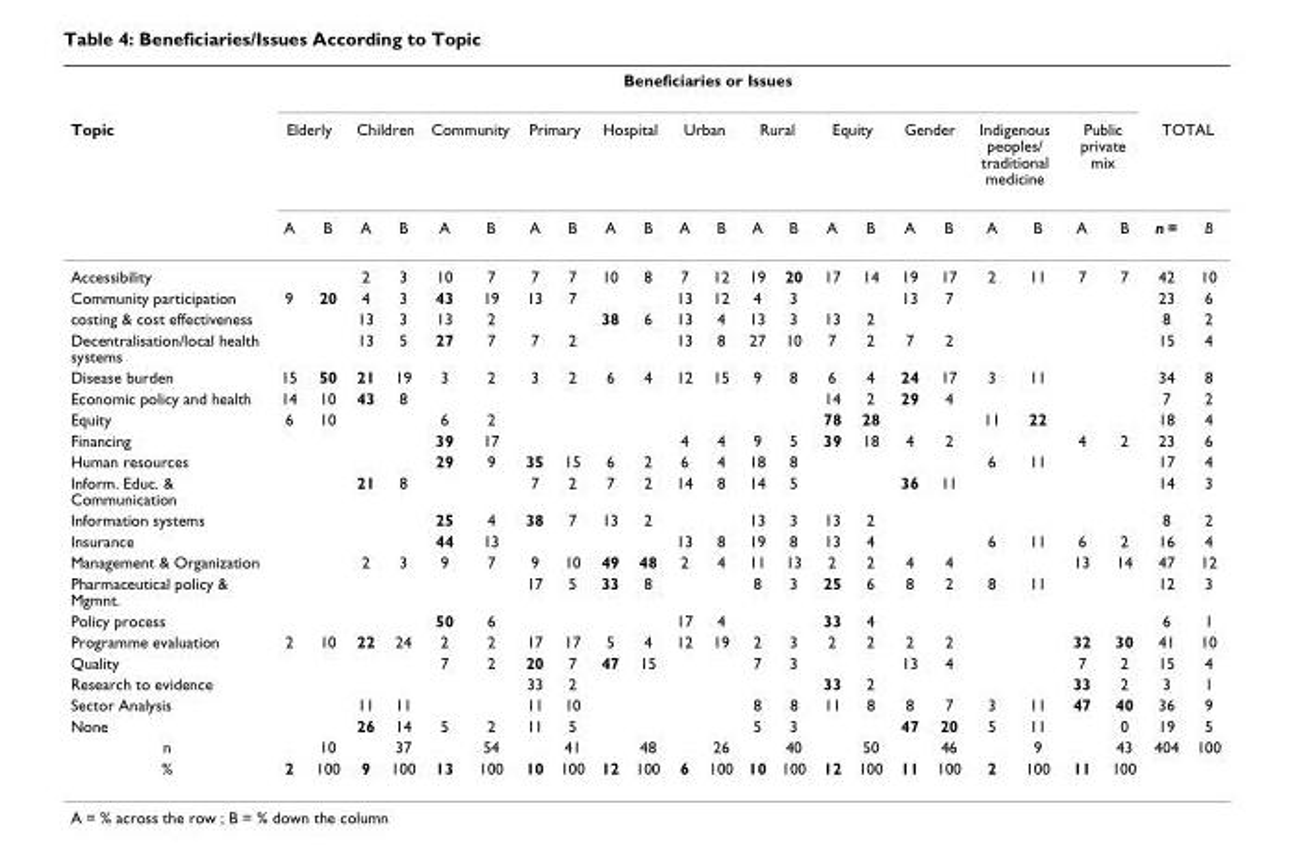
<table><thead><tr><td rowspan="3">Topic</td><td colspan="22">Beneficiaries or Issues</td><td></td><td></td></tr><tr><td colspan="2">Elderly</td><td colspan="2">Children</td><td colspan="2">Community</td><td colspan="2">Primary</td><td colspan="2">Hospital</td><td colspan="2">Urban</td><td colspan="2">Rural</td><td colspan="2">Equity</td><td colspan="2">Gender</td><td colspan="2">Indigenous peoples/ traditional medicine</td><td colspan="2">Public private mix</td><td colspan="2">TOTAL</td></tr><tr><td>A</td><td>B</td><td>A</td><td>B</td><td>A</td><td>B</td><td>A</td><td>B</td><td>A</td><td>B</td><td>A</td><td>B</td><td>A</td><td>B</td><td>A</td><td>B</td><td>A</td><td>B</td><td>A</td><td>B</td><td>A</td><td>B</td><td>n =</td><td>B</td></tr></thead><tbody><tr><td>Accessibility</td><td></td><td></td><td>2</td><td>3</td><td>10</td><td>7</td><td>7</td><td>7</td><td>10</td><td>8</td><td>7</td><td>12</td><td>19</td><td>20</td><td>17</td><td>14</td><td>19</td><td>17</td><td>2</td><td>11</td><td>7</td><td>7</td><td>42</td><td>10</td></tr><tr><td>Community participation</td><td>9</td><td>20</td><td>4</td><td>3</td><td>43</td><td>19</td><td>13</td><td>7</td><td></td><td></td><td>13</td><td>12</td><td>4</td><td>3</td><td></td><td></td><td>13</td><td>7</td><td></td><td></td><td></td><td></td><td>23</td><td>6</td></tr><tr><td>costing &amp; cost effectiveness</td><td></td><td></td><td>13</td><td>3</td><td>13</td><td>2</td><td></td><td></td><td>38</td><td>6</td><td>13</td><td>4</td><td>13</td><td>3</td><td>13</td><td>2</td><td></td><td></td><td></td><td></td><td></td><td></td><td>8</td><td>2</td></tr><tr><td>Decentralisation/local health systems</td><td></td><td></td><td>13</td><td>5</td><td>27</td><td>7</td><td>7</td><td>2</td><td></td><td></td><td>13</td><td>8</td><td>27</td><td>10</td><td>7</td><td>2</td><td>7</td><td>2</td><td></td><td></td><td></td><td></td><td>15</td><td>4</td></tr><tr><td>Disease burden</td><td>15</td><td>50</td><td>21</td><td>19</td><td>3</td><td>2</td><td>3</td><td>2</td><td>6</td><td>4</td><td>12</td><td>15</td><td>9</td><td>8</td><td>6</td><td>4</td><td>24</td><td>17</td><td>3</td><td>11</td><td></td><td></td><td>34</td><td>8</td></tr><tr><td>Economic policy and health</td><td>14</td><td>10</td><td>43</td><td>8</td><td></td><td></td><td></td><td></td><td></td><td></td><td></td><td></td><td></td><td></td><td>14</td><td>2</td><td>29</td><td>4</td><td></td><td></td><td></td><td></td><td>7</td><td>2</td></tr><tr><td>Equity</td><td>6</td><td>10</td><td></td><td></td><td>6</td><td>2</td><td></td><td></td><td></td><td></td><td></td><td></td><td></td><td></td><td>78</td><td>28</td><td></td><td></td><td>11</td><td>22</td><td></td><td></td><td>18</td><td>4</td></tr><tr><td>Financing</td><td></td><td></td><td></td><td></td><td>39</td><td>17</td><td></td><td></td><td></td><td></td><td>4</td><td>4</td><td>9</td><td>5</td><td>39</td><td>18</td><td>4</td><td>2</td><td></td><td></td><td>4</td><td>2</td><td>23</td><td>6</td></tr><tr><td>Human resources</td><td></td><td></td><td></td><td></td><td>29</td><td>9</td><td>35</td><td>15</td><td>6</td><td>2</td><td>6</td><td>4</td><td>18</td><td>8</td><td></td><td></td><td></td><td></td><td>6</td><td>11</td><td></td><td></td><td>17</td><td>4</td></tr><tr><td>Inform. Educ. &amp; Communication</td><td></td><td></td><td>21</td><td>8</td><td></td><td></td><td>7</td><td>2</td><td>7</td><td>2</td><td>14</td><td>8</td><td>14</td><td>5</td><td></td><td></td><td>36</td><td>11</td><td></td><td></td><td></td><td></td><td>14</td><td>3</td></tr><tr><td>Information systems</td><td></td><td></td><td></td><td></td><td>25</td><td>4</td><td>38</td><td>7</td><td>13</td><td>2</td><td></td><td></td><td>13</td><td>3</td><td>13</td><td>2</td><td></td><td></td><td></td><td></td><td></td><td></td><td>8</td><td>2</td></tr><tr><td>Insurance</td><td></td><td></td><td></td><td></td><td>44</td><td>13</td><td></td><td></td><td></td><td></td><td>13</td><td>8</td><td>19</td><td>8</td><td>13</td><td>4</td><td></td><td></td><td>6</td><td>11</td><td>6</td><td>2</td><td>16</td><td>4</td></tr><tr><td>Management &amp; Organization</td><td></td><td></td><td>2</td><td>3</td><td>9</td><td>7</td><td>9</td><td>10</td><td>49</td><td>48</td><td>2</td><td>4</td><td>11</td><td>13</td><td>2</td><td>2</td><td>4</td><td>4</td><td></td><td></td><td>13</td><td>14</td><td>47</td><td>12</td></tr><tr><td>Pharmaceutical policy &amp; Mgmnt.</td><td></td><td></td><td></td><td></td><td></td><td></td><td>17</td><td>5</td><td>33</td><td>8</td><td></td><td></td><td>8</td><td>3</td><td>25</td><td>6</td><td>8</td><td>2</td><td>8</td><td>11</td><td></td><td></td><td>12</td><td>3</td></tr><tr><td>Policy process</td><td></td><td></td><td></td><td></td><td>50</td><td>6</td><td></td><td></td><td></td><td></td><td>17</td><td>4</td><td></td><td></td><td>33</td><td>4</td><td></td><td></td><td></td><td></td><td></td><td></td><td>6</td><td>1</td></tr><tr><td>Programme evaluation</td><td>2</td><td>10</td><td>22</td><td>24</td><td>2</td><td>2</td><td>17</td><td>17</td><td>5</td><td>4</td><td>12</td><td>19</td><td>2</td><td>3</td><td>2</td><td>2</td><td>2</td><td>2</td><td></td><td></td><td>32</td><td>30</td><td>41</td><td>10</td></tr><tr><td>Quality</td><td></td><td></td><td></td><td></td><td>7</td><td>2</td><td>20</td><td>7</td><td>47</td><td>15</td><td></td><td></td><td>7</td><td>3</td><td></td><td></td><td>13</td><td>4</td><td></td><td></td><td>7</td><td>2</td><td>15</td><td>4</td></tr><tr><td>Research to evidence</td><td></td><td></td><td></td><td></td><td></td><td></td><td>33</td><td>2</td><td></td><td></td><td></td><td></td><td></td><td></td><td>33</td><td>2</td><td></td><td></td><td></td><td></td><td>33</td><td>2</td><td>3</td><td>1</td></tr><tr><td>Sector Analysis</td><td></td><td></td><td>11</td><td>11</td><td></td><td></td><td>11</td><td>10</td><td></td><td></td><td></td><td></td><td>8</td><td>8</td><td>11</td><td>8</td><td>8</td><td>7</td><td>3</td><td>11</td><td>47</td><td>40</td><td>36</td><td>9</td></tr><tr><td>None</td><td></td><td></td><td>26</td><td>14</td><td>5</td><td>2</td><td>11</td><td>5</td><td></td><td></td><td></td><td></td><td>5</td><td>3</td><td></td><td></td><td>47</td><td>20</td><td>5</td><td>11</td><td></td><td>0</td><td>19</td><td>5</td></tr><tr><td>n</td><td></td><td>10</td><td></td><td>37</td><td></td><td>54</td><td></td><td>41</td><td></td><td>48</td><td></td><td>26</td><td></td><td>40</td><td></td><td>50</td><td></td><td>46</td><td></td><td>9</td><td></td><td>43</td><td>404</td><td>100</td></tr><tr><td>%</td><td>2</td><td>100</td><td>9</td><td>100</td><td>13</td><td>100</td><td>10</td><td>100</td><td>12</td><td>100</td><td>6</td><td>100</td><td>10</td><td>100</td><td>12</td><td>100</td><td>11</td><td>100</td><td>2</td><td>100</td><td>11</td><td>100</td><td></td><td></td></tr></tbody></table>